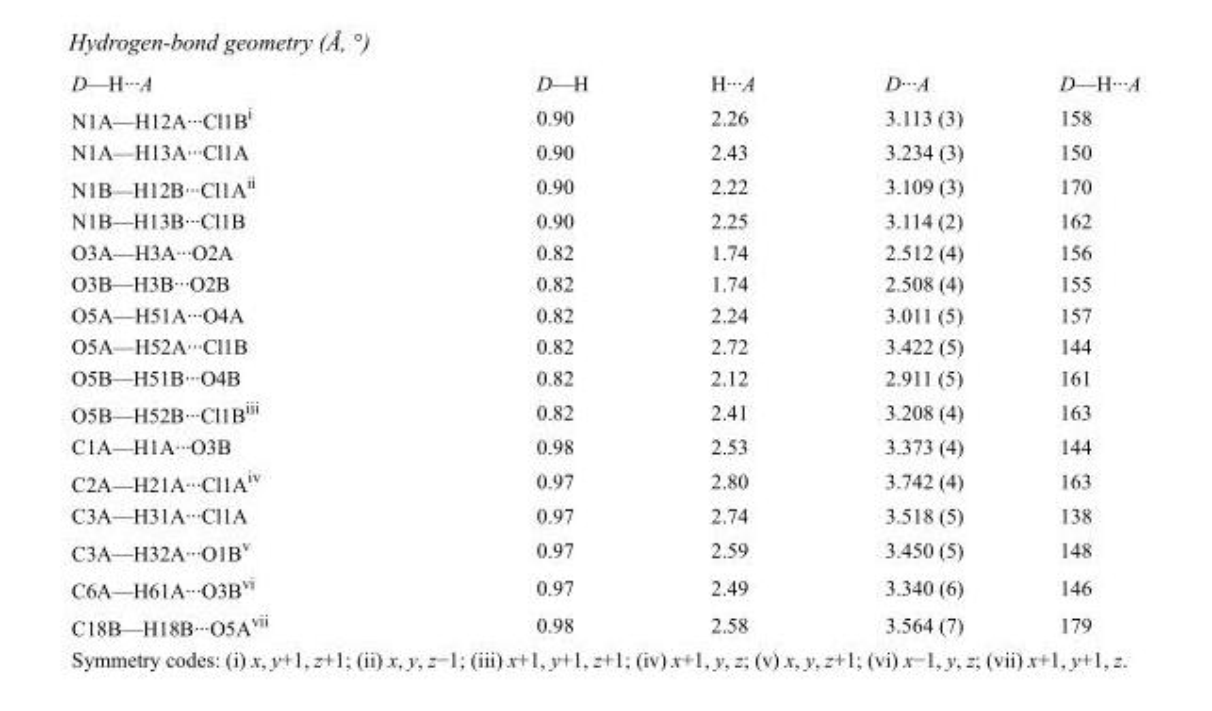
<table><tbody><tr><td>D—H···A</td><td>D—H</td><td>H···A</td><td>D···A</td><td>D—H···A</td></tr><tr><td>N1A—H12A···Cl1B<sup>i</sup></td><td>0.90</td><td>2.26</td><td>3.113 (3)</td><td>158</td></tr><tr><td>N1A—H13A···Cl1A</td><td>0.90</td><td>2.43</td><td>3.234 (3)</td><td>150</td></tr><tr><td>N1B—H12B···Cl1A<sup>ii</sup></td><td>0.90</td><td>2.22</td><td>3.109 (3)</td><td>170</td></tr><tr><td>N1B—H13B···Cl1B</td><td>0.90</td><td>2.25</td><td>3.114 (2)</td><td>162</td></tr><tr><td>O3A—H3A···O2A</td><td>0.82</td><td>1.74</td><td>2.512 (4)</td><td>156</td></tr><tr><td>O3B—H3B···O2B</td><td>0.82</td><td>1.74</td><td>2.508 (4)</td><td>155</td></tr><tr><td>O5A—H51A···O4A</td><td>0.82</td><td>2.24</td><td>3.011 (5)</td><td>157</td></tr><tr><td>O5A—H52A···Cl1B</td><td>0.82</td><td>2.72</td><td>3.422 (5)</td><td>144</td></tr><tr><td>O5B—H51B···O4B</td><td>0.82</td><td>2.12</td><td>2.911 (5)</td><td>161</td></tr><tr><td>O5B—H52B···Cl1B<sup>iii</sup></td><td>0.82</td><td>2.41</td><td>3.208 (4)</td><td>163</td></tr><tr><td>C1A—H1A···O3B</td><td>0.98</td><td>2.53</td><td>3.373 (4)</td><td>144</td></tr><tr><td>C2A—H21A···Cl1A<sup>iv</sup></td><td>0.97</td><td>2.80</td><td>3.742 (4)</td><td>163</td></tr><tr><td>C3A—H31A···Cl1A</td><td>0.97</td><td>2.74</td><td>3.518 (5)</td><td>138</td></tr><tr><td>C3A—H32A···O1B<sup>v</sup></td><td>0.97</td><td>2.59</td><td>3.450 (5)</td><td>148</td></tr><tr><td>C6A—H61A···O3B<sup>vi</sup></td><td>0.97</td><td>2.49</td><td>3.340 (6)</td><td>146</td></tr><tr><td>C18B—H18B···O5A<sup>vii</sup></td><td>0.98</td><td>2.58</td><td>3.564 (7)</td><td>179</td></tr></tbody></table>